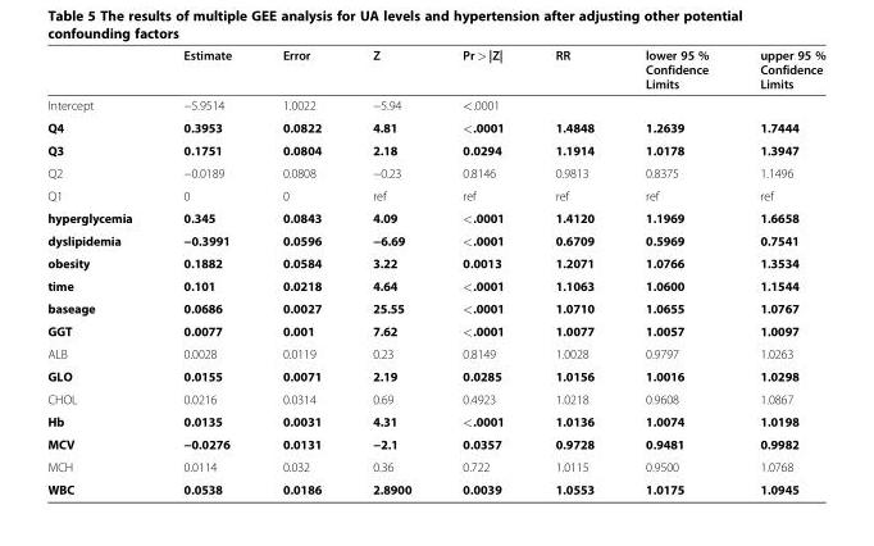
<table><thead><tr><td></td><td>Estimate</td><td>Error</td><td>Z</td><td>Pr &gt; |Z|</td><td>RR</td><td>lower 95 % Confidence Limits</td><td>upper 95 % Confidence Limits</td></tr></thead><tbody><tr><td>Intercept</td><td>−5.9514</td><td>1.0022</td><td>−5.94</td><td>&lt;.0001</td><td></td><td></td><td></td></tr><tr><td>Q4</td><td>0.3953</td><td>0.0822</td><td>4.81</td><td>&lt;.0001</td><td>1.4848</td><td>1.2639</td><td>1.7444</td></tr><tr><td>Q3</td><td>0.1751</td><td>0.0804</td><td>2.18</td><td>0.0294</td><td>1.1914</td><td>1.0178</td><td>1.3947</td></tr><tr><td>Q2</td><td>−0.0189</td><td>0.0808</td><td>−0.23</td><td>0.8146</td><td>0.9813</td><td>0.8375</td><td>1.1496</td></tr><tr><td>Q1</td><td>0</td><td>0</td><td>ref</td><td>ref</td><td>ref</td><td>ref</td><td>ref</td></tr><tr><td>hyperglycemia</td><td>0.345</td><td>0.0843</td><td>4.09</td><td>&lt;.0001</td><td>1.4120</td><td>1.1969</td><td>1.6658</td></tr><tr><td>dyslipidemia</td><td>−0.3991</td><td>0.0596</td><td>−6.69</td><td>&lt;.0001</td><td>0.6709</td><td>0.5969</td><td>0.7541</td></tr><tr><td>obesity</td><td>0.1882</td><td>0.0584</td><td>3.22</td><td>0.0013</td><td>1.2071</td><td>1.0766</td><td>1.3534</td></tr><tr><td>time</td><td>0.101</td><td>0.0218</td><td>4.64</td><td>&lt;.0001</td><td>1.1063</td><td>1.0600</td><td>1.1544</td></tr><tr><td>baseage</td><td>0.0686</td><td>0.0027</td><td>25.55</td><td>&lt;.0001</td><td>1.0710</td><td>1.0655</td><td>1.0767</td></tr><tr><td>GGT</td><td>0.0077</td><td>0.001</td><td>7.62</td><td>&lt;.0001</td><td>1.0077</td><td>1.0057</td><td>1.0097</td></tr><tr><td>ALB</td><td>0.0028</td><td>0.0119</td><td>0.23</td><td>0.8149</td><td>1.0028</td><td>0.9797</td><td>1.0263</td></tr><tr><td>GLO</td><td>0.0155</td><td>0.0071</td><td>2.19</td><td>0.0285</td><td>1.0156</td><td>1.0016</td><td>1.0298</td></tr><tr><td>CHOL</td><td>0.0216</td><td>0.0314</td><td>0.69</td><td>0.4923</td><td>1.0218</td><td>0.9608</td><td>1.0867</td></tr><tr><td>Hb</td><td>0.0135</td><td>0.0031</td><td>4.31</td><td>&lt;.0001</td><td>1.0136</td><td>1.0074</td><td>1.0198</td></tr><tr><td>MCV</td><td>−0.0276</td><td>0.0131</td><td>−2.1</td><td>0.0357</td><td>0.9728</td><td>0.9481</td><td>0.9982</td></tr><tr><td>MCH</td><td>0.0114</td><td>0.032</td><td>0.36</td><td>0.722</td><td>1.0115</td><td>0.9500</td><td>1.0768</td></tr><tr><td>WBC</td><td>0.0538</td><td>0.0186</td><td>2.8900</td><td>0.0039</td><td>1.0553</td><td>1.0175</td><td>1.0945</td></tr></tbody></table>